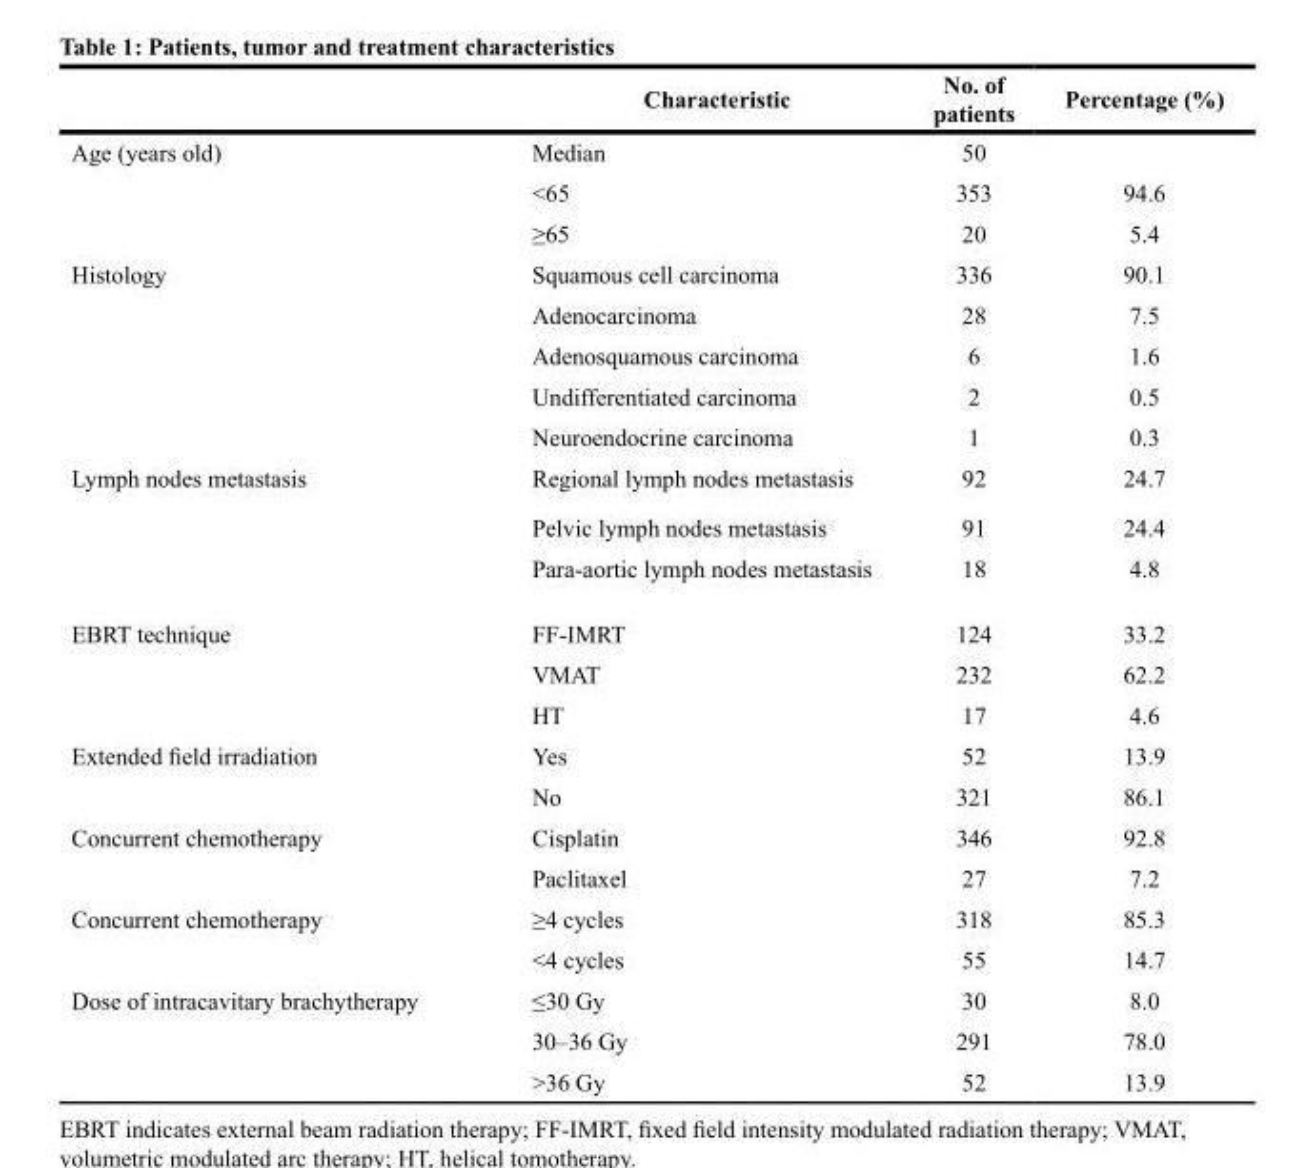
<table><thead><tr><td></td><td>Characteristic</td><td>No. of patients</td><td>Percentage (%)</td></tr></thead><tbody><tr><td rowspan="3">Age (years old)</td><td>Median</td><td>50</td><td></td></tr><tr><td>&lt;65</td><td>353</td><td>94.6</td></tr><tr><td>≥65</td><td>20</td><td>5.4</td></tr><tr><td rowspan="5">Histology</td><td>Squamous cell carcinoma</td><td>336</td><td>90.1</td></tr><tr><td>Adenocarcinoma</td><td>28</td><td>7.5</td></tr><tr><td>Adenosquamous carcinoma</td><td>6</td><td>1.6</td></tr><tr><td>Undifferentiated carcinoma</td><td>2</td><td>0.5</td></tr><tr><td>Neuroendocrine carcinoma</td><td>1</td><td>0.3</td></tr><tr><td rowspan="3">Lymph nodes metastasis</td><td>Regional lymph nodes metastasis</td><td>92</td><td>24.7</td></tr><tr><td>Pelvic lymph nodes metastasis</td><td>91</td><td>24.4</td></tr><tr><td>Para-aortic lymph nodes metastasis</td><td>18</td><td>4.8</td></tr><tr><td rowspan="3">EBRT technique</td><td>FF-IMRT</td><td>124</td><td>33.2</td></tr><tr><td>VMAT</td><td>232</td><td>62.2</td></tr><tr><td>HT</td><td>17</td><td>4.6</td></tr><tr><td rowspan="2">Extended field irradiation</td><td>Yes</td><td>52</td><td>13.9</td></tr><tr><td>No</td><td>321</td><td>86.1</td></tr><tr><td rowspan="2">Concurrent chemotherapy</td><td>Cisplatin</td><td>346</td><td>92.8</td></tr><tr><td>Paclitaxel</td><td>27</td><td>7.2</td></tr><tr><td rowspan="2">Concurrent chemotherapy</td><td>≥4 cycles</td><td>318</td><td>85.3</td></tr><tr><td>&lt;4 cycles</td><td>55</td><td>14.7</td></tr><tr><td rowspan="3">Dose of intracavitary brachytherapy</td><td>≤30 Gy</td><td>30</td><td>8.0</td></tr><tr><td>30–36 Gy</td><td>291</td><td>78.0</td></tr><tr><td>&gt;36 Gy</td><td>52</td><td>13.9</td></tr></tbody></table>